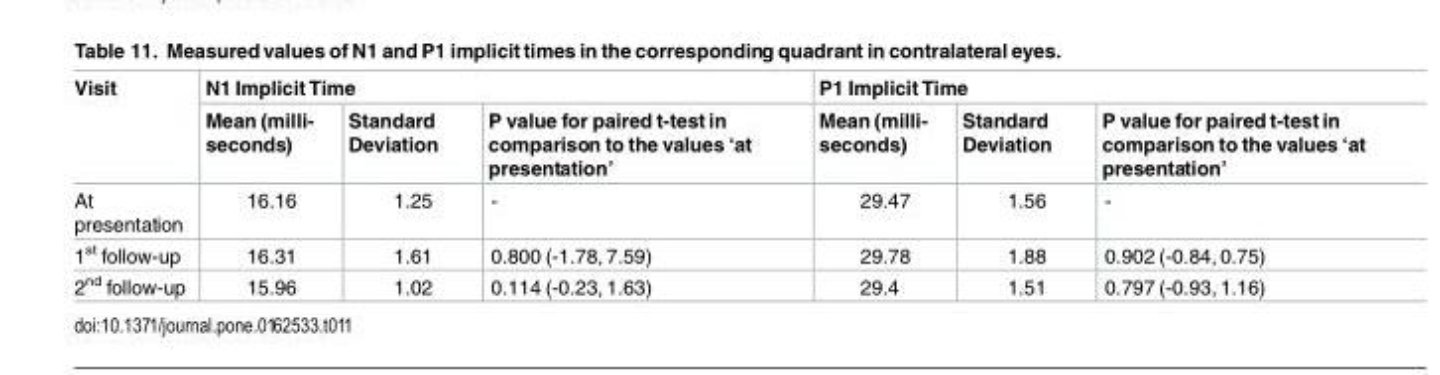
<table><thead><tr><td rowspan="2">Visit</td><td colspan="3">N1 Implicit Time</td><td colspan="3">P1 Implicit Time</td></tr><tr><td>Mean (milli- seconds)</td><td>Standard Deviation</td><td>P value for paired t-test in comparison to the values ‘at presentation’</td><td>Mean (milli- seconds)</td><td>Standard Deviation</td><td>P value for paired t-test in comparison to the values ‘at presentation’</td></tr></thead><tbody><tr><td>At presentation</td><td>16.16</td><td>1.25</td><td>-</td><td>29.47</td><td>1.56</td><td>-</td></tr><tr><td>1<sup>st</sup> follow-up</td><td>16.31</td><td>1.61</td><td>0.800 (-1.78, 7.59)</td><td>29.78</td><td>1.88</td><td>0.902 (-0.84, 0.75)</td></tr><tr><td>2<sup>nd</sup> follow-up</td><td>15.96</td><td>1.02</td><td>0.114 (-0.23, 1.63)</td><td>29.4</td><td>1.51</td><td>0.797 (-0.93, 1.16)</td></tr></tbody></table>